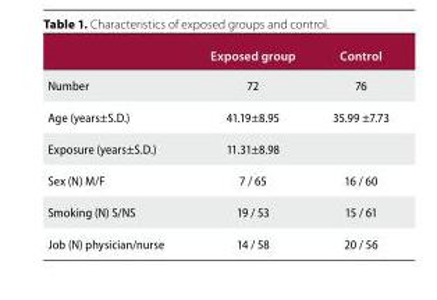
<table><thead><tr><td></td><td>Exposed group</td><td>Control</td></tr></thead><tbody><tr><td>Number</td><td>72</td><td>76</td></tr><tr><td>Age (years±S.D.)</td><td>41.19±8.95</td><td>35.99 ±7.73</td></tr><tr><td>Exposure (years±S.D.)</td><td>11.31±8.98</td><td></td></tr><tr><td>Sex (N) M/F</td><td>7 / 65</td><td>16 / 60</td></tr><tr><td>Smoking (N) S/NS</td><td>19 / 53</td><td>15 / 61</td></tr><tr><td>Job (N) physician/nurse</td><td>14 / 58</td><td>20 / 56</td></tr></tbody></table>